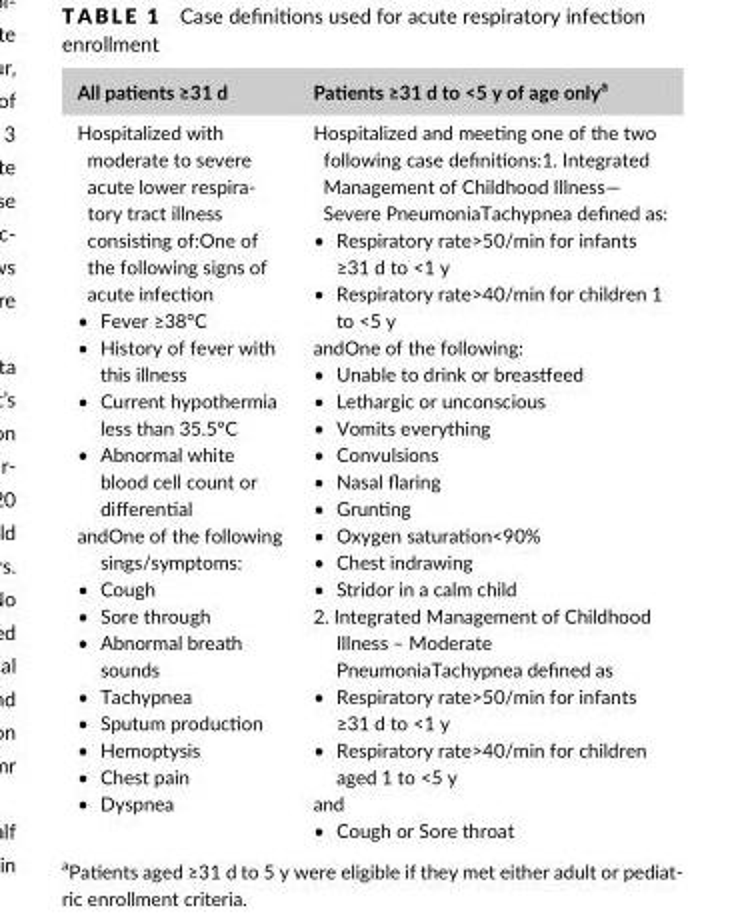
<table><thead><tr><td>All patients ≥31 d</td><td>Patients ≥31 d to &lt;5 y of age only<sup>a</sup></td></tr></thead><tbody><tr><td>Hospitalized with moderate to severe acute lower respira- tory tract illness consisting of:One of the following signs of acute infection • Fever ≥38°C • History of fever with this illness • Current hypothermia less than 35.5°C • Abnormal white blood cell count or differential andOne of the following sings/symptoms: • Cough • Sore through • Abnormal breath sounds • Tachypnea • Sputum production • Hemoptysis • Chest pain • Dyspnea</td><td>Hospitalized and meeting one of the two following case definitions:1. Integrated Management of Childhood Illness— Severe PneumoniaTachypnea defined as: • Respiratory rate&gt;50/min for infants ≥31 d to &lt;1 y • Respiratory rate&gt;40/min for children 1 to &lt;5 y andOne of the following: • Unable to drink or breastfeed • Lethargic or unconscious • Vomits everything • Convulsions • Nasal flaring • Grunting • Oxygen saturation&lt;90% • Chest indrawing • Stridor in a calm child 2. Integrated Management of Childhood Illness – Moderate PneumoniaTachypnea defined as • Respiratory rate&gt;50/min for infants ≥31 d to &lt;1 y • Respiratory rate&gt;40/min for children aged 1 to &lt;5 y and • Cough or Sore throat</td></tr></tbody></table>